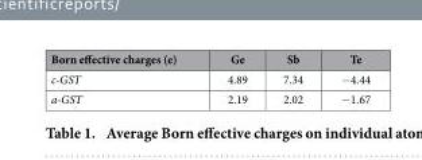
<table><thead><tr><td>Born effective charges (e)</td><td>Ge</td><td>Sb</td><td>Te</td></tr></thead><tbody><tr><td>c-GST</td><td>4.89</td><td>7.34</td><td>− 4.44</td></tr><tr><td>a-GST</td><td>2.19</td><td>2.02</td><td>− 1.67</td></tr></tbody></table>